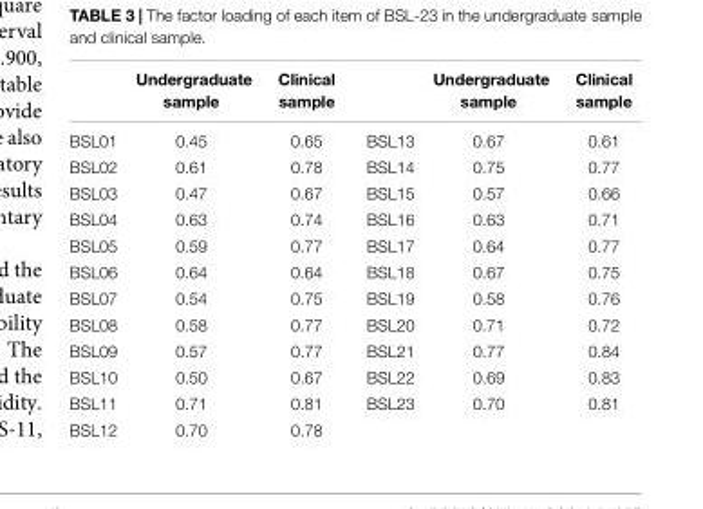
<table><thead><tr><td></td><td>Undergraduate sample</td><td>Clinical sample</td><td></td><td>Undergraduate sample</td><td>Clinical sample</td></tr></thead><tbody><tr><td>BSL01</td><td>0.45</td><td>0.65</td><td>BSL13</td><td>0.67</td><td>0.61</td></tr><tr><td>BSL02</td><td>0.61</td><td>0.78</td><td>BSL14</td><td>0.75</td><td>0.77</td></tr><tr><td>BSL03</td><td>0.47</td><td>0.67</td><td>BSL15</td><td>0.57</td><td>0.66</td></tr><tr><td>BSL04</td><td>0.63</td><td>0.74</td><td>BSL16</td><td>0.63</td><td>0.71</td></tr><tr><td>BSL05</td><td>0.59</td><td>0.77</td><td>BSL17</td><td>0.64</td><td>0.77</td></tr><tr><td>BSL06</td><td>0.64</td><td>0.64</td><td>BSL18</td><td>0.67</td><td>0.75</td></tr><tr><td>BSL07</td><td>0.54</td><td>0.75</td><td>BSL19</td><td>0.58</td><td>0.76</td></tr><tr><td>BSL08</td><td>0.58</td><td>0.77</td><td>BSL20</td><td>0.71</td><td>0.72</td></tr><tr><td>BSL09</td><td>0.57</td><td>0.77</td><td>BSL21</td><td>0.77</td><td>0.84</td></tr><tr><td>BSL10</td><td>0.50</td><td>0.67</td><td>BSL22</td><td>0.69</td><td>0.83</td></tr><tr><td>BSL11</td><td>0.71</td><td>0.81</td><td>BSL23</td><td>0.70</td><td>0.81</td></tr><tr><td>BSL12</td><td>0.70</td><td>0.78</td><td></td><td></td><td></td></tr></tbody></table>